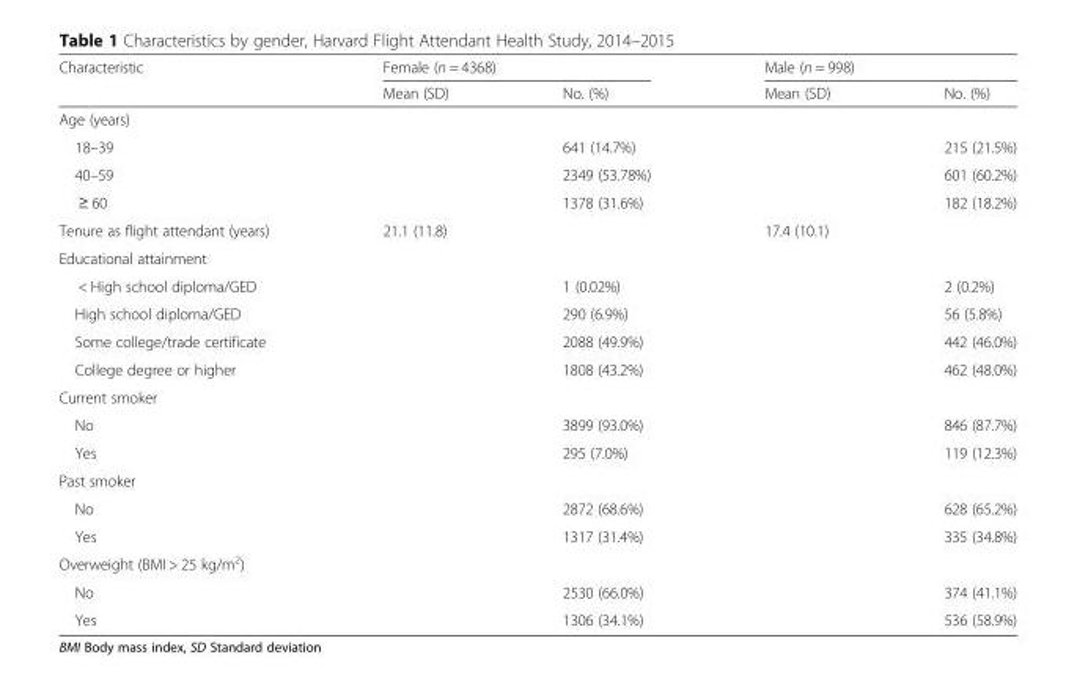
<table><thead><tr><td rowspan="2">Characteristic</td><td colspan="2">Female (n = 4368)</td><td colspan="2">Male (n = 998)</td></tr><tr><td>Mean (SD)</td><td>No. (%)</td><td>Mean (SD)</td><td>No. (%)</td></tr></thead><tbody><tr><td colspan="5">Age (years)</td></tr><tr><td>18–39</td><td></td><td>641 (14.7%)</td><td></td><td>215 (21.5%)</td></tr><tr><td>40–59</td><td></td><td>2349 (53.78%)</td><td></td><td>601 (60.2%)</td></tr><tr><td>≥ 60</td><td></td><td>1378 (31.6%)</td><td></td><td>182 (18.2%)</td></tr><tr><td>Tenure as flight attendant (years)</td><td colspan="2">21.1 (11.8)</td><td colspan="2">17.4 (10.1)</td></tr><tr><td colspan="5">Educational attainment</td></tr><tr><td>&lt; High school diploma/GED</td><td></td><td>1 (0.02%)</td><td></td><td>2 (0.2%)</td></tr><tr><td>High school diploma/GED</td><td></td><td>290 (6.9%)</td><td></td><td>56 (5.8%)</td></tr><tr><td>Some college/trade certificate</td><td></td><td>2088 (49.9%)</td><td></td><td>442 (46.0%)</td></tr><tr><td>College degree or higher</td><td></td><td>1808 (43.2%)</td><td></td><td>462 (48.0%)</td></tr><tr><td colspan="5">Current smoker</td></tr><tr><td>No</td><td></td><td>3899 (93.0%)</td><td></td><td>846 (87.7%)</td></tr><tr><td>Yes</td><td></td><td>295 (7.0%)</td><td></td><td>119 (12.3%)</td></tr><tr><td colspan="5">Past smoker</td></tr><tr><td>No</td><td></td><td>2872 (68.6%)</td><td></td><td>628 (65.2%)</td></tr><tr><td>Yes</td><td></td><td>1317 (31.4%)</td><td></td><td>335 (34.8%)</td></tr><tr><td colspan="5">Overweight (BMI &gt; 25 kg/m<sup>2</sup>)</td></tr><tr><td>No</td><td></td><td>2530 (66.0%)</td><td></td><td>374 (41.1%)</td></tr><tr><td>Yes</td><td></td><td>1306 (34.1%)</td><td></td><td>536 (58.9%)</td></tr></tbody></table>